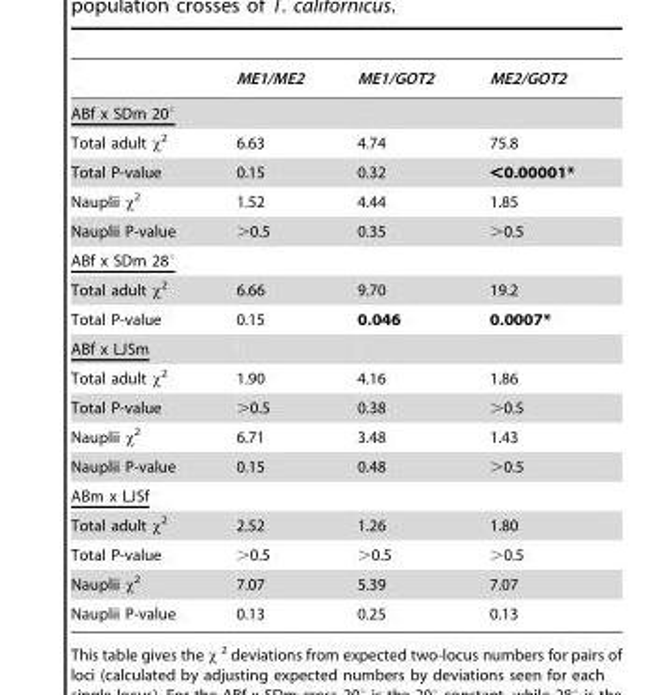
<table><thead><tr><td></td><td>ME1/ME2</td><td>ME1/GOT2</td><td>ME2/GOT2</td></tr></thead><tbody><tr><td colspan="4">ABf x SDm 20°</td></tr><tr><td>Total adult χ<sup>2</sup></td><td>6.63</td><td>4.74</td><td>75.8</td></tr><tr><td>Total P-value</td><td>0.15</td><td>0.32</td><td>&lt;0.00001*</td></tr><tr><td>Nauplii χ<sup>2</sup></td><td>1.52</td><td>4.44</td><td>1.85</td></tr><tr><td>Nauplii P-value</td><td>&gt;0.5</td><td>0.35</td><td>&gt;0.5</td></tr><tr><td colspan="4">ABf x SDm 28°</td></tr><tr><td>Total adult χ<sup>2</sup></td><td>6.66</td><td>9.70</td><td>19.2</td></tr><tr><td>Total P-value</td><td>0.15</td><td>0.046</td><td>0.0007*</td></tr><tr><td colspan="4">ABf x LJSm</td></tr><tr><td>Total adult χ<sup>2</sup></td><td>1.90</td><td>4.16</td><td>1.86</td></tr><tr><td>Total P-value</td><td>&gt;0.5</td><td>0.38</td><td>&gt;0.5</td></tr><tr><td>Nauplii χ<sup>2</sup></td><td>6.71</td><td>3.48</td><td>1.43</td></tr><tr><td>Nauplii P-value</td><td>0.15</td><td>0.48</td><td>&gt;0.5</td></tr><tr><td colspan="4">ABm x LJSf</td></tr><tr><td>Total adult χ<sup>2</sup></td><td>2.52</td><td>1.26</td><td>1.80</td></tr><tr><td>Total P-value</td><td>&gt;0.5</td><td>&gt;0.5</td><td>&gt;0.5</td></tr><tr><td>Nauplii χ<sup>2</sup></td><td>7.07</td><td>5.39</td><td>7.07</td></tr><tr><td>Nauplii P-value</td><td>0.13</td><td>0.25</td><td>0.13</td></tr></tbody></table>